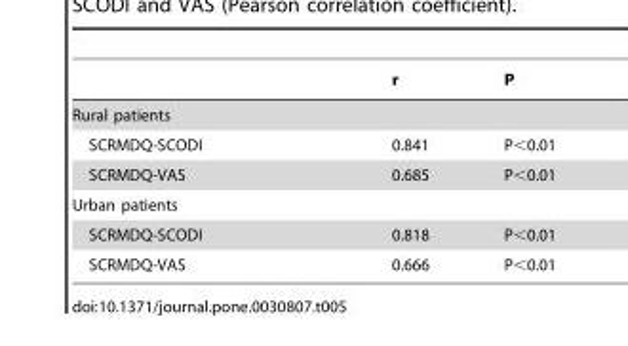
<table><thead><tr><td></td><td>r</td><td>P</td></tr></thead><tbody><tr><td colspan="3">Rural patients</td></tr><tr><td>SCRMDQ-SCODI</td><td>0.841</td><td>P&lt;0.01</td></tr><tr><td>SCRMDQ-VAS</td><td>0.685</td><td>P&lt;0.01</td></tr><tr><td colspan="3">Urban patients</td></tr><tr><td>SCRMDQ-SCODI</td><td>0.818</td><td>P&lt;0.01</td></tr><tr><td>SCRMDQ-VAS</td><td>0.666</td><td>P&lt;0.01</td></tr></tbody></table>